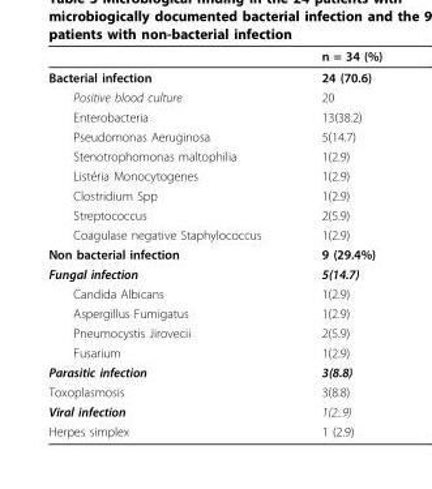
<table><thead><tr><td></td><td>n = 34 (%)</td></tr></thead><tbody><tr><td>Bacterial infection</td><td>24 (70.6)</td></tr><tr><td>Positive blood culture</td><td>20</td></tr><tr><td>Enterobacteria</td><td>13(38.2)</td></tr><tr><td>Pseudomonas Aeruginosa</td><td>5(14.7)</td></tr><tr><td>Stenotrophomonas maltophilia</td><td>1(2.9)</td></tr><tr><td>Listéria Monocytogenes</td><td>1(2.9)</td></tr><tr><td>Clostridium Spp</td><td>1(2.9)</td></tr><tr><td>Streptococcus</td><td>2(5.9)</td></tr><tr><td>Coagulase negative Staphylococcus</td><td>1(2.9)</td></tr><tr><td>Non bacterial infection</td><td>9 (29.4%)</td></tr><tr><td>Fungal infection</td><td>5(14.7)</td></tr><tr><td>Candida Albicans</td><td>1(2.9)</td></tr><tr><td>Aspergillus Fumigatus</td><td>1(2.9)</td></tr><tr><td>Pneumocystis Jirovecii</td><td>2(5.9)</td></tr><tr><td>Fusarium</td><td>1(2.9)</td></tr><tr><td>Parasitic infection</td><td>3(8.8)</td></tr><tr><td>Toxoplasmosis</td><td>3(8.8)</td></tr><tr><td>Viral infection</td><td>1(2..9)</td></tr><tr><td>Herpes simplex</td><td>1 (2.9)</td></tr></tbody></table>